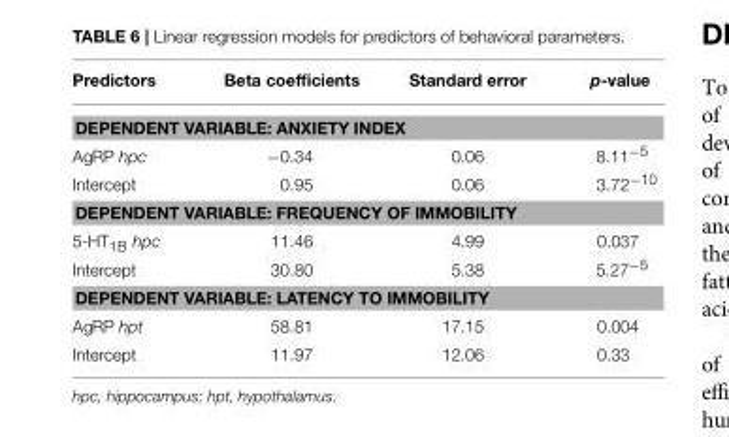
<table><thead><tr><td>Predictors</td><td>Beta coefficients</td><td>Standard error</td><td>p-value</td></tr></thead><tbody><tr><td colspan="4">DEPENDENT VARIABLE: ANXIETY INDEX</td></tr><tr><td>AgRP hpc</td><td>−0.34</td><td>0.06</td><td>8.11<sup>−5</sup></td></tr><tr><td>Intercept</td><td>0.95</td><td>0.06</td><td>3.72<sup>−10</sup></td></tr><tr><td colspan="4">DEPENDENT VARIABLE: FREQUENCY OF IMMOBILITY</td></tr><tr><td>5-HT<sub>1B</sub> hpc</td><td>11.46</td><td>4.99</td><td>0.037</td></tr><tr><td>Intercept</td><td>30.80</td><td>5.38</td><td>5.27<sup>−5</sup></td></tr><tr><td colspan="4">DEPENDENT VARIABLE: LATENCY TO IMMOBILITY</td></tr><tr><td>AgRP hpt</td><td>58.81</td><td>17.15</td><td>0.004</td></tr><tr><td>Intercept</td><td>11.97</td><td>12.06</td><td>0.33</td></tr></tbody></table>